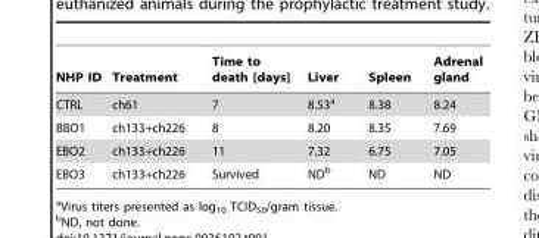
<table><thead><tr><td>NHP ID</td><td>Treatment</td><td>Time to death [days]</td><td>Liver</td><td>Spleen</td><td>Adrenal gland</td></tr></thead><tbody><tr><td>CTRL</td><td>ch61</td><td>7</td><td>8.53<sup>a</sup></td><td>8.38</td><td>8.24</td></tr><tr><td>BBO1</td><td>ch133+ch226</td><td>8</td><td>8.20</td><td>8.35</td><td>7.69</td></tr><tr><td>EBO2</td><td>ch133+ch226</td><td>11</td><td>7.32</td><td>6.75</td><td>7.05</td></tr><tr><td>EBO3</td><td>ch133+ch226</td><td>Survived</td><td>ND<sup>b</sup></td><td>ND</td><td>ND</td></tr></tbody></table>